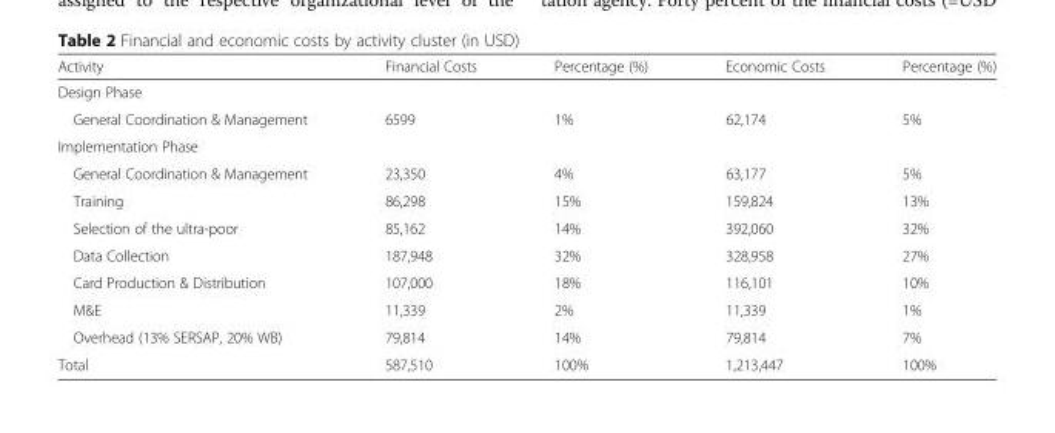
<table><thead><tr><td>Activity</td><td>Financial Costs</td><td>Percentage (%)</td><td>Economic Costs</td><td>Percentage (%)</td></tr></thead><tbody><tr><td colspan="5">Design Phase</td></tr><tr><td>General Coordination &amp; Management</td><td>6599</td><td>1%</td><td>62,174</td><td>5%</td></tr><tr><td colspan="5">Implementation Phase</td></tr><tr><td>General Coordination &amp; Management</td><td>23,350</td><td>4%</td><td>63,177</td><td>5%</td></tr><tr><td>Training</td><td>86,298</td><td>15%</td><td>159,824</td><td>13%</td></tr><tr><td>Selection of the ultra-poor</td><td>85,162</td><td>14%</td><td>392,060</td><td>32%</td></tr><tr><td>Data Collection</td><td>187,948</td><td>32%</td><td>328,958</td><td>27%</td></tr><tr><td>Card Production &amp; Distribution</td><td>107,000</td><td>18%</td><td>116,101</td><td>10%</td></tr><tr><td>M&amp;E</td><td>11,339</td><td>2%</td><td>11,339</td><td>1%</td></tr><tr><td>Overhead (13% SERSAP, 20% WB)</td><td>79,814</td><td>14%</td><td>79,814</td><td>7%</td></tr><tr><td>Total</td><td>587,510</td><td>100%</td><td>1,213,447</td><td>100%</td></tr></tbody></table>